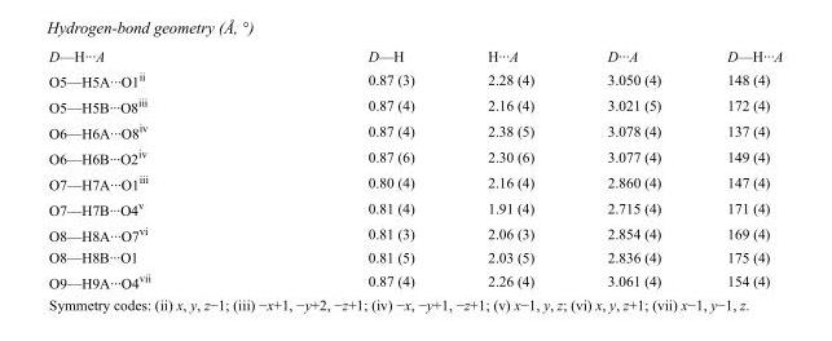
<table><tbody><tr><td>D—H···A</td><td>D—H</td><td>H···A</td><td>D···A</td><td>D—H···A</td></tr><tr><td>O5—H5A···O1<sup>ii</sup></td><td>0.87 (3)</td><td>2.28 (4)</td><td>3.050 (4)</td><td>148 (4)</td></tr><tr><td>O5—H5B···O8<sup>iii</sup></td><td>0.87 (4)</td><td>2.16 (4)</td><td>3.021 (5)</td><td>172 (4)</td></tr><tr><td>O6—H6A···O8<sup>iv</sup></td><td>0.87 (4)</td><td>2.38 (5)</td><td>3.078 (4)</td><td>137 (4)</td></tr><tr><td>O6—H6B···O2<sup>iv</sup></td><td>0.87 (6)</td><td>2.30 (6)</td><td>3.077 (4)</td><td>149 (4)</td></tr><tr><td>O7—H7A···O1<sup>iii</sup></td><td>0.80 (4)</td><td>2.16 (4)</td><td>2.860 (4)</td><td>147 (4)</td></tr><tr><td>O7—H7B···O4<sup>v</sup></td><td>0.81 (4)</td><td>1.91 (4)</td><td>2.715 (4)</td><td>171 (4)</td></tr><tr><td>O8—H8A···O7<sup>vi</sup></td><td>0.81 (3)</td><td>2.06 (3)</td><td>2.854 (4)</td><td>169 (4)</td></tr><tr><td>O8—H8B···O1</td><td>0.81 (5)</td><td>2.03 (5)</td><td>2.836 (4)</td><td>175 (4)</td></tr><tr><td>O9—H9A···O4<sup>vii</sup></td><td>0.87 (4)</td><td>2.26 (4)</td><td>3.061 (4)</td><td>154 (4)</td></tr></tbody></table>